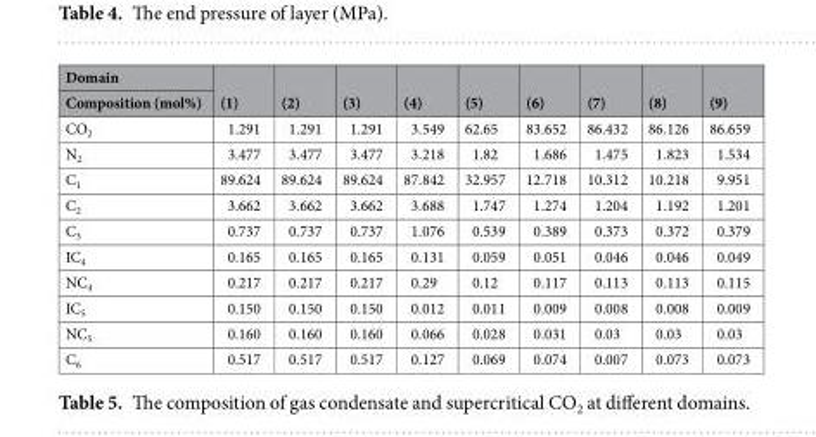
<table><thead><tr><td rowspan="2">Domain Composition (mol%)</td><td rowspan="2">(1)</td><td rowspan="2">(2)</td><td rowspan="2">(3)</td><td rowspan="2">(4)</td><td rowspan="2">(5)</td><td rowspan="2">(6)</td><td rowspan="2">(7)</td><td rowspan="2">(8)</td><td rowspan="2">(9)</td></tr><tr></tr></thead><tbody><tr><td>CO<sub>2</sub></td><td>1.291</td><td>1.291</td><td>1.291</td><td>3.549</td><td>62.65</td><td>83.652</td><td>86.432</td><td>86.126</td><td>86.659</td></tr><tr><td>N<sub>2</sub></td><td>3.477</td><td>3.477</td><td>3.477</td><td>3.218</td><td>1.82</td><td>1.686</td><td>1.475</td><td>1.823</td><td>1.534</td></tr><tr><td>C<sub>1</sub></td><td>89.624</td><td>89.624</td><td>89.624</td><td>87.842</td><td>32.957</td><td>12.718</td><td>10.312</td><td>10.218</td><td>9.951</td></tr><tr><td>C<sub>2</sub></td><td>3.662</td><td>3.662</td><td>3.662</td><td>3.688</td><td>1.747</td><td>1.274</td><td>1.204</td><td>1.192</td><td>1.201</td></tr><tr><td>C<sub>3</sub></td><td>0.737</td><td>0.737</td><td>0.737</td><td>1.076</td><td>0.539</td><td>0.389</td><td>0.373</td><td>0.372</td><td>0.379</td></tr><tr><td>IC<sub>4</sub></td><td>0.165</td><td>0.165</td><td>0.165</td><td>0.131</td><td>0.059</td><td>0.051</td><td>0.046</td><td>0.046</td><td>0.049</td></tr><tr><td>NC<sub>4</sub></td><td>0.217</td><td>0.217</td><td>0.217</td><td>0.29</td><td>0.12</td><td>0.117</td><td>0.113</td><td>0.113</td><td>0.115</td></tr><tr><td>IC<sub>5</sub></td><td>0.150</td><td>0.150</td><td>0.150</td><td>0.012</td><td>0.011</td><td>0.009</td><td>0.008</td><td>0.008</td><td>0.009</td></tr><tr><td>NC<sub>5</sub></td><td>0.160</td><td>0.160</td><td>0.160</td><td>0.066</td><td>0.028</td><td>0.031</td><td>0.03</td><td>0.03</td><td>0.03</td></tr><tr><td>C<sub>6</sub></td><td>0.517</td><td>0.517</td><td>0.517</td><td>0.127</td><td>0.069</td><td>0.074</td><td>0.007</td><td>0.073</td><td>0.073</td></tr></tbody></table>